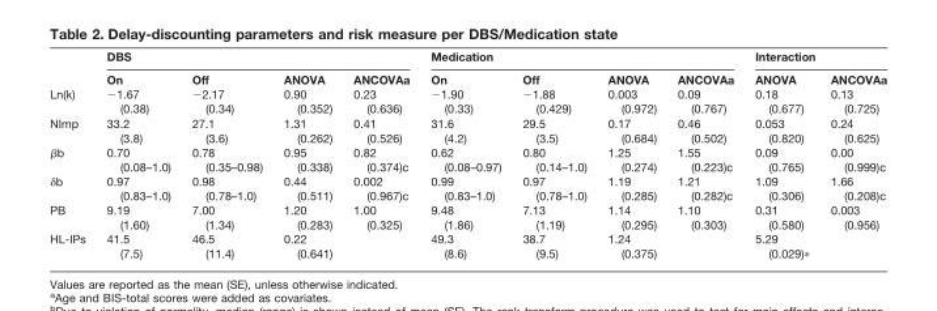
<table><thead><tr><td rowspan="2"></td><td colspan="4">DBS</td><td colspan="4">Medication</td><td colspan="2">Interaction</td></tr><tr><td>On</td><td>Off</td><td>ANOVA</td><td>ANCOVAa</td><td>On</td><td>Off</td><td>ANOVA</td><td>ANCOVAa</td><td>ANOVA</td><td>ANCOVAa</td></tr></thead><tbody><tr><td>Ln(k)</td><td>−1.67 (0.38)</td><td>−2.17 (0.34)</td><td>0.90 (0.352)</td><td>0.23 (0.636)</td><td>−1.90 (0.33)</td><td>−1.88 (0.429)</td><td>0.003 (0.972)</td><td>0.09 (0.767)</td><td>0.18 (0.677)</td><td>0.13 (0.725)</td></tr><tr><td>NImp</td><td>33.2 (3.8)</td><td>27.1 (3.6)</td><td>1.31 (0.262)</td><td>0.41 (0.526)</td><td>31.6 (4.2)</td><td>29.5 (3.5)</td><td>0.17 (0.684)</td><td>0.46 (0.502)</td><td>0.053 (0.820)</td><td>0.24 (0.625)</td></tr><tr><td>βb</td><td>0.70 (0.08–1.0)</td><td>0.78 (0.35–0.98)</td><td>0.95 (0.338)</td><td>0.82 (0.374)c</td><td>0.62 (0.08–0.97)</td><td>0.80 (0.14–1.0)</td><td>1.25 (0.274)</td><td>1.55 (0.223)c</td><td>0.09 (0.765)</td><td>0.00 (0.999)c</td></tr><tr><td>δb</td><td>0.97 (0.83–1.0)</td><td>0.98 (0.78–1.0)</td><td>0.44 (0.511)</td><td>0.002 (0.967)c</td><td>0.99 (0.83–1.0)</td><td>0.97 (0.78–1.0)</td><td>1.19 (0.285)</td><td>1.21 (0.282)c</td><td>1.09 (0.306)</td><td>1.66 (0.208)c</td></tr><tr><td>PB</td><td>9.19 (1.60)</td><td>7.00 (1.34)</td><td>1.20 (0.283)</td><td>1.00 (0.325)</td><td>9.48 (1.86)</td><td>7.13 (1.19)</td><td>1.14 (0.295)</td><td>1.10 (0.303)</td><td>0.31 (0.580)</td><td>0.003 (0.956)</td></tr><tr><td>HL-IPs</td><td>41.5 (7.5)</td><td>46.5 (11.4)</td><td>0.22 (0.641)</td><td></td><td>49.3 (8.6)</td><td>38.7 (9.5)</td><td>1.24 (0.375)</td><td></td><td>5.29 (0.029)*</td><td></td></tr></tbody></table>